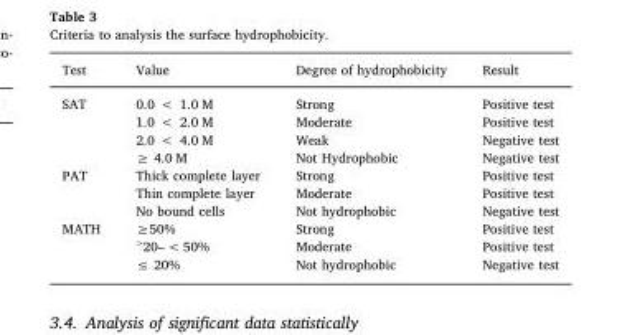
<table><thead><tr><td>Test</td><td>Value</td><td>Degree of hydrophobicity</td><td>Result</td></tr></thead><tbody><tr><td rowspan="4">SAT</td><td>0.0 &lt; 1.0 M</td><td>Strong</td><td>Positive test</td></tr><tr><td>1.0 &lt; 2.0 M</td><td>Moderate</td><td>Positive test</td></tr><tr><td>2.0 &lt; 4.0 M</td><td>Weak</td><td>Negative test</td></tr><tr><td>≥ 4.0 M</td><td>Not Hydrophobic</td><td>Negative test</td></tr><tr><td rowspan="3">PAT</td><td>Thick complete layer</td><td>Strong</td><td>Positive test</td></tr><tr><td>Thin complete layer</td><td>Moderate</td><td>Positive test</td></tr><tr><td>No bound cells</td><td>Not hydrophobic</td><td>Negative test</td></tr><tr><td rowspan="3">MATH</td><td>≥50%</td><td>Strong</td><td>Positive test</td></tr><tr><td>˃20– &lt; 50%</td><td>Moderate</td><td>Positive test</td></tr><tr><td>≤ 20%</td><td>Not hydrophobic</td><td>Negative test</td></tr></tbody></table>